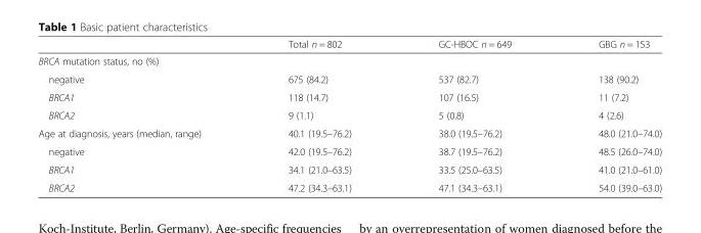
<table><thead><tr><td></td><td>Total n = 802</td><td>GC-HBOC n = 649</td><td>GBG n = 153</td></tr></thead><tbody><tr><td colspan="4">BRCA mutation status, no (%)</td></tr><tr><td>negative</td><td>675 (84.2)</td><td>537 (82.7)</td><td>138 (90.2)</td></tr><tr><td>BRCA1</td><td>118 (14.7)</td><td>107 (16.5)</td><td>11 (7.2)</td></tr><tr><td>BRCA2</td><td>9 (1.1)</td><td>5 (0.8)</td><td>4 (2.6)</td></tr><tr><td>Age at diagnosis, years (median, range)</td><td>40.1 (19.5–76.2)</td><td>38.0 (19.5–76.2)</td><td>48.0 (21.0–74.0)</td></tr><tr><td>negative</td><td>42.0 (19.5–76.2)</td><td>38.7 (19.5–76.2)</td><td>48.5 (26.0–74.0)</td></tr><tr><td>BRCA1</td><td>34.1 (21.0–63.5)</td><td>33.5 (25.0–63.5)</td><td>41.0 (21.0–61.0)</td></tr><tr><td>BRCA2</td><td>47.2 (34.3–63.1)</td><td>47.1 (34.3–63.1)</td><td>54.0 (39.0–63.0)</td></tr></tbody></table>